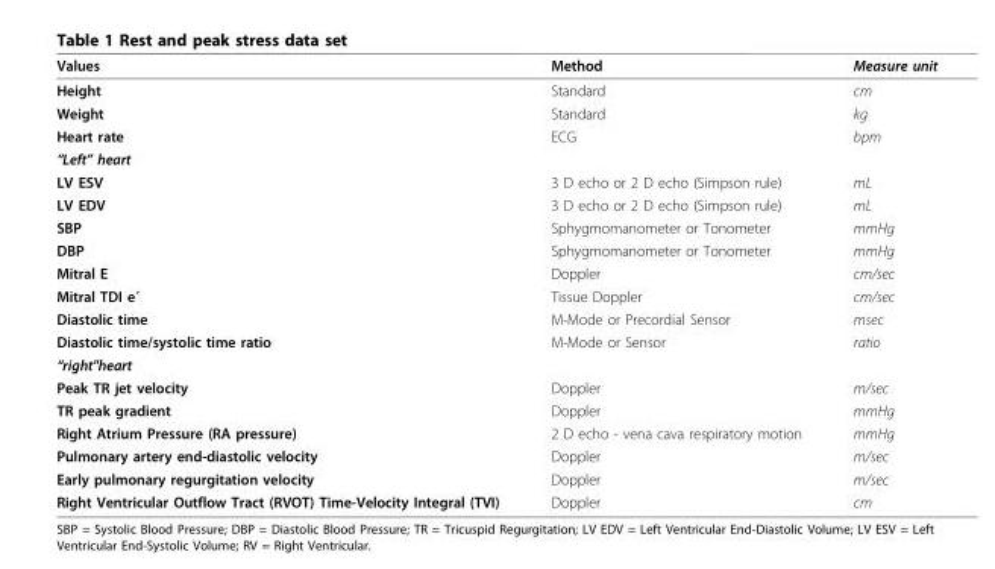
<table><thead><tr><td>Values</td><td>Method</td><td>Measure unit</td></tr></thead><tbody><tr><td>Height</td><td>Standard</td><td>cm</td></tr><tr><td>Weight</td><td>Standard</td><td>kg</td></tr><tr><td>Heart rate</td><td>ECG</td><td>bpm</td></tr><tr><td colspan="3">“Left” heart</td></tr><tr><td>LV ESV</td><td>3 D echo or 2 D echo (Simpson rule)</td><td>mL</td></tr><tr><td>LV EDV</td><td>3 D echo or 2 D echo (Simpson rule)</td><td>mL</td></tr><tr><td>SBP</td><td>Sphygmomanometer or Tonometer</td><td>mmHg</td></tr><tr><td>DBP</td><td>Sphygmomanometer or Tonometer</td><td>mmHg</td></tr><tr><td>Mitral E</td><td>Doppler</td><td>cm/sec</td></tr><tr><td>Mitral TDI e´</td><td>Tissue Doppler</td><td>cm/sec</td></tr><tr><td>Diastolic time</td><td>M-Mode or Precordial Sensor</td><td>msec</td></tr><tr><td>Diastolic time/systolic time ratio</td><td>M-Mode or Sensor</td><td>ratio</td></tr><tr><td colspan="3">“right&quot;heart</td></tr><tr><td>Peak TR jet velocity</td><td>Doppler</td><td>m/sec</td></tr><tr><td>TR peak gradient</td><td>Doppler</td><td>mmHg</td></tr><tr><td>Right Atrium Pressure (RA pressure)</td><td>2 D echo - vena cava respiratory motion</td><td>mmHg</td></tr><tr><td>Pulmonary artery end-diastolic velocity</td><td>Doppler</td><td>m/sec</td></tr><tr><td>Early pulmonary regurgitation velocity</td><td>Doppler</td><td>m/sec</td></tr><tr><td>Right Ventricular Outflow Tract (RVOT) Time-Velocity Integral (TVI)</td><td>Doppler</td><td>cm</td></tr></tbody></table>